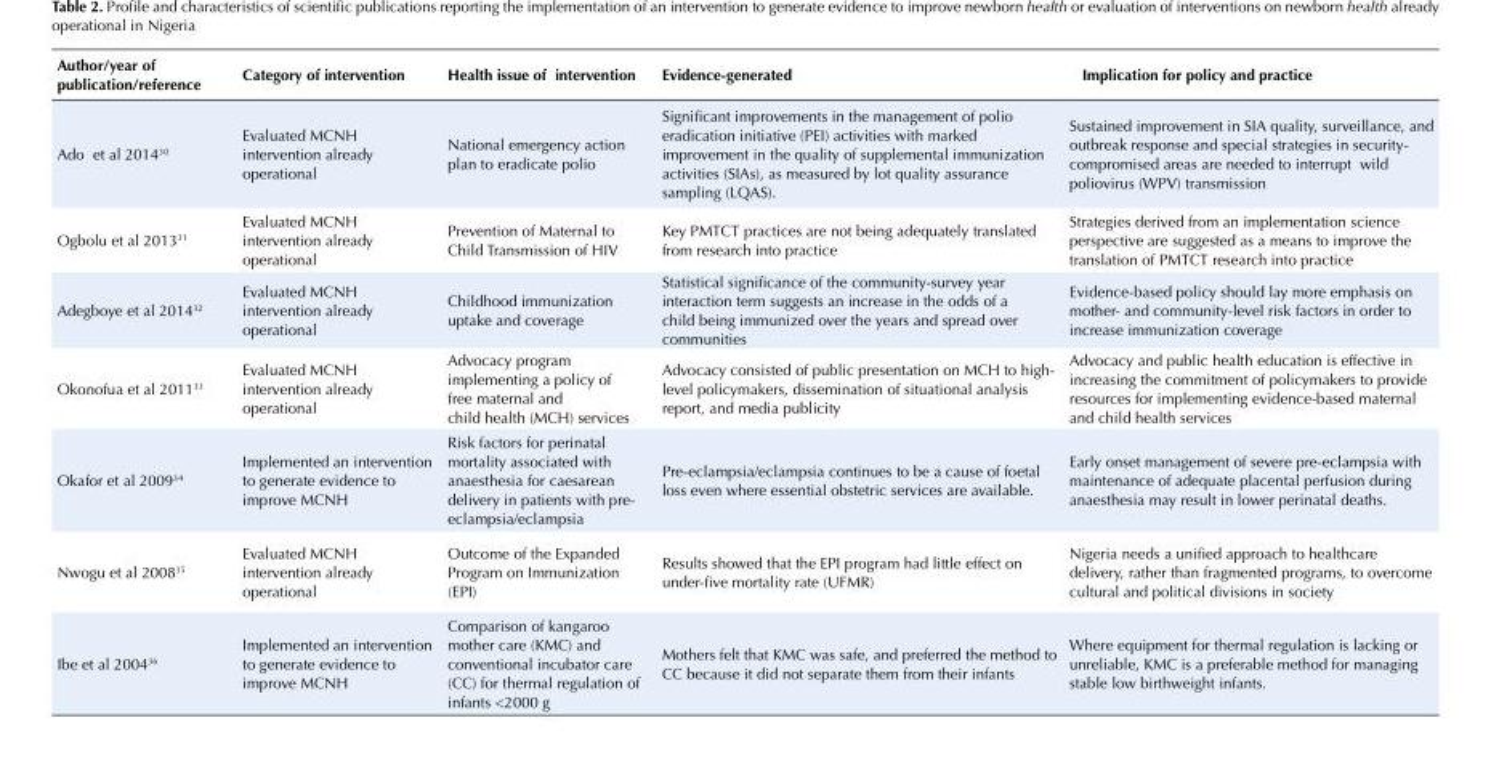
<table><tbody><tr><td>Author/year of publication/reference</td><td>Category of intervention</td><td>Health issue of intervention</td><td>Evidence-generated</td><td>Implication for policy and practice</td></tr><tr><td>Ado et al 2014<sup>30</sup></td><td>Evaluated MCNH intervention already operational</td><td>National emergency action plan to eradicate polio</td><td>Significant improvements in the management of polio eradication initiative (PEI) activities with marked improvement in the quality of supplemental immunization activities (SIAs), as measured by lot quality assurance sampling (LQAS).</td><td>Sustained improvement in SIA quality, surveillance, and outbreak response and special strategies in security- compromised areas are needed to interrupt wild poliovirus (WPV) transmission</td></tr><tr><td>Ogbolu et al 2013<sup>31</sup></td><td>Evaluated MCNH intervention already operational</td><td>Prevention of Maternal to Child Transmission of HIV</td><td>Key PMTCT practices are not being adequately translated from research into practice</td><td>Strategies derived from an implementation science perspective are suggested as a means to improve the translation of PMTCT research into practice</td></tr><tr><td>Adegboye et al 2014<sup>32</sup></td><td>Evaluated MCNH intervention already operational</td><td>Childhood immunization uptake and coverage</td><td>Statistical significance of the community-survey year interaction term suggests an increase in the odds of a child being immunized over the years and spread over communities</td><td>Evidence-based policy should lay more emphasis on mother- and community-level risk factors in order to increase immunization coverage</td></tr><tr><td>Okonofua et al 2011<sup>33</sup></td><td>Evaluated MCNH intervention already operational</td><td>Advocacy program implementing a policy of free maternal and child health (MCH) services</td><td>Advocacy consisted of public presentation on MCH to high- level policymakers, dissemination of situational analysis report, and media publicity</td><td>Advocacy and public health education is effective in increasing the commitment of policymakers to provide resources for implementing evidence-based maternal and child health services</td></tr><tr><td>Okafor et al 2009<sup>34</sup></td><td>Implemented an intervention to generate evidence to improve MCNH</td><td>Risk factors for perinatal mortality associated with anaesthesia for caesarean delivery in patients with pre- eclampsia/eclampsia</td><td>Pre-eclampsia/eclampsia continues to be a cause of foetal loss even where essential obstetric services are available.</td><td>Early onset management of severe pre-eclampsia with maintenance of adequate placental perfusion during anaesthesia may result in lower perinatal deaths.</td></tr><tr><td>Nwogu et al 2008<sup>35</sup></td><td>Evaluated MCNH intervention already operational</td><td>Outcome of the Expanded Program on Immunization (EPI)</td><td>Results showed that the EPI program had little effect on under-five mortality rate (UFMR)</td><td>Nigeria needs a unified approach to healthcare delivery, rather than fragmented programs, to overcome cultural and political divisions in society</td></tr><tr><td>Ibe et al 2004<sup>36</sup></td><td>Implemented an intervention to generate evidence to improve MCNH</td><td>Comparison of kangaroo mother care (KMC) and conventional incubator care (CC) for thermal regulation of infants &lt;2000 g</td><td>Mothers felt that KMC was safe, and preferred the method to CC because it did not separate them from their infants</td><td>Where equipment for thermal regulation is lacking or unreliable, KMC is a preferable method for managing stable low birthweight infants.</td></tr></tbody></table>